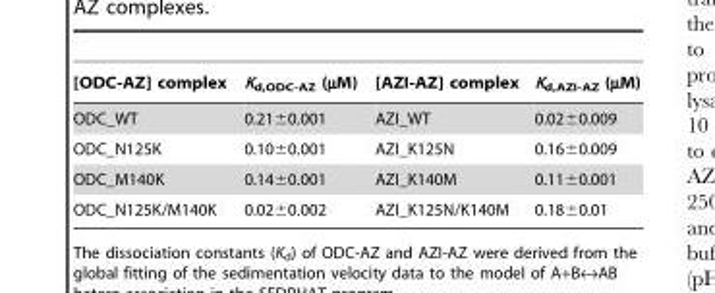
<table><thead><tr><td>[ODC-AZ] complex</td><td>K<sub>d,ODC-AZ</sub> (µM)</td><td>[AZI-AZ] complex</td><td>K<sub>d,AZI-AZ</sub> (µM)</td></tr></thead><tbody><tr><td>ODC_WT</td><td>0.21±0.001</td><td>AZI_WT</td><td>0.02±0.009</td></tr><tr><td>ODC_N125K</td><td>0.10±0.001</td><td>AZI_K125N</td><td>0.16±0.009</td></tr><tr><td>ODC_M140K</td><td>0.14±0.001</td><td>AZI_K140M</td><td>0.11±0.001</td></tr><tr><td>ODC_N125K/M140K</td><td>0.02±0.002</td><td>AZI_K125N/K140M</td><td>0.18±0.01</td></tr></tbody></table>